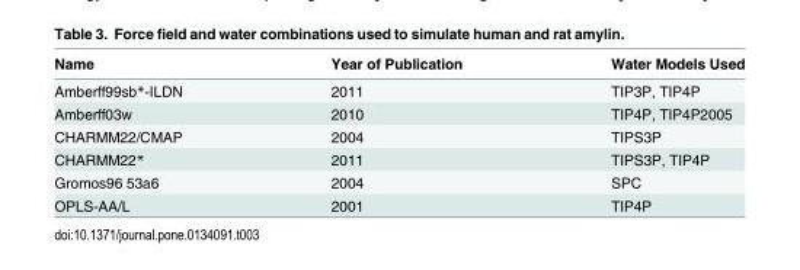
<table><thead><tr><td>Name</td><td>Year of Publication</td><td>Water Models Used</td></tr></thead><tbody><tr><td>Amberff99sb*-ILDN</td><td>2011</td><td>TIP3P, TIP4P</td></tr><tr><td>Amberff03w</td><td>2010</td><td>TIP4P, TIP4P2005</td></tr><tr><td>CHARMM22/CMAP</td><td>2004</td><td>TIPS3P</td></tr><tr><td>CHARMM22*</td><td>2011</td><td>TIPS3P, TIP4P</td></tr><tr><td>Gromos96 53a6</td><td>2004</td><td>SPC</td></tr><tr><td>OPLS-AA/L</td><td>2001</td><td>TIP4P</td></tr></tbody></table>